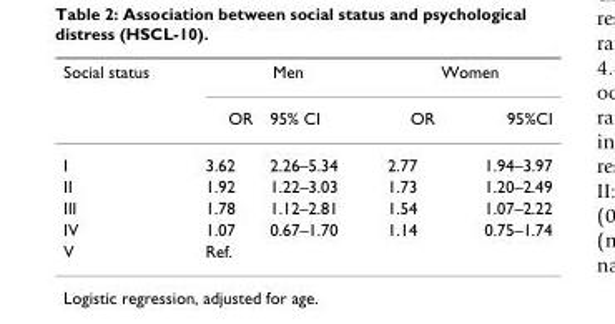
<table><thead><tr><td rowspan="2">Social status</td><td colspan="2">Men</td><td colspan="2">Women</td></tr><tr><td>OR</td><td>95% CI</td><td>OR</td><td>95%CI</td></tr></thead><tbody><tr><td>I</td><td>3.62</td><td>2.26–5.34</td><td>2.77</td><td>1.94–3.97</td></tr><tr><td>II</td><td>1.92</td><td>1.22–3.03</td><td>1.73</td><td>1.20–2.49</td></tr><tr><td>III</td><td>1.78</td><td>1.12–2.81</td><td>1.54</td><td>1.07–2.22</td></tr><tr><td>IV</td><td>1.07</td><td>0.67–1.70</td><td>1.14</td><td>0.75–1.74</td></tr><tr><td>V</td><td>Ref.</td><td></td><td></td><td></td></tr></tbody></table>